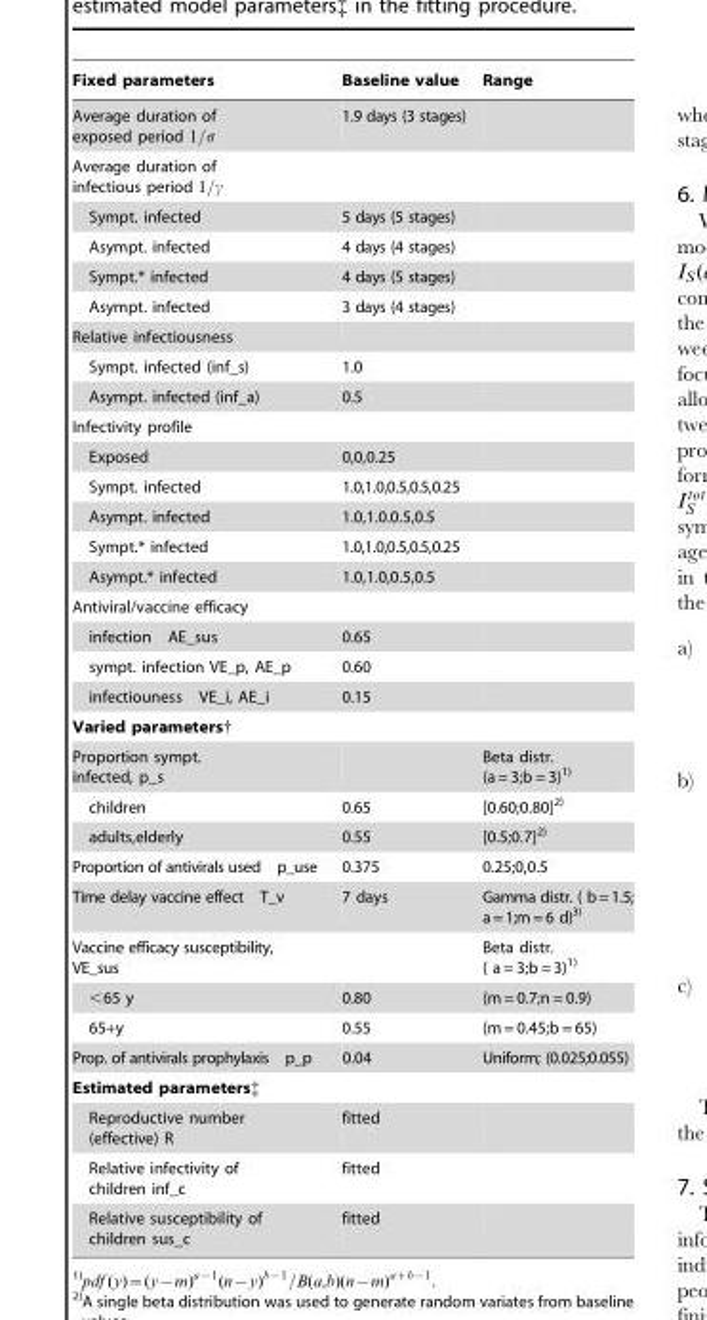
<table><thead><tr><td>Fixed parameters</td><td>Baseline value</td><td>Range</td></tr></thead><tbody><tr><td>Average duration of exposed period 1=s</td><td>1.9 days (3 stages)</td><td></td></tr><tr><td colspan="3">Average duration of infectious period 1=c</td></tr><tr><td>Sympt. infected</td><td>5 days (5 stages)</td><td></td></tr><tr><td>Asympt. infected</td><td>4 days (4 stages)</td><td></td></tr><tr><td>Sympt.* infected</td><td>4 days (5 stages)</td><td></td></tr><tr><td>Asympt. infected</td><td>3 days (4 stages)</td><td></td></tr><tr><td colspan="3">Relative infectiousness</td></tr><tr><td>Sympt. infected (inf_s)</td><td>1.0</td><td></td></tr><tr><td>Asympt. infected (inf_a)</td><td>0.5</td><td></td></tr><tr><td colspan="3">Infectivity profile</td></tr><tr><td>Exposed</td><td>0,0,0.25</td><td></td></tr><tr><td>Sympt. infected</td><td>1.0,1.0,0.5,0.5,0.25</td><td></td></tr><tr><td>Asympt. infected</td><td>1.0,1.0.0.5,0.5</td><td></td></tr><tr><td>Sympt.* infected</td><td>1.0,1.0,0.5,0.5,0.25</td><td></td></tr><tr><td>Asympt.* infected</td><td>1.0,1.0,0.5,0.5</td><td></td></tr><tr><td colspan="3">Antiviral/vaccine efficacy</td></tr><tr><td>infection AE_sus</td><td>0.65</td><td></td></tr><tr><td>sympt. infection VE_p, AE_p</td><td>0.60</td><td></td></tr><tr><td>infectiouness VE_i, AE_i</td><td>0.15</td><td></td></tr><tr><td colspan="3">Varied parameters†</td></tr><tr><td>Proportion sympt. infected, p_s</td><td></td><td>Beta distr. (a = 3;b = 3)1)</td></tr><tr><td>children</td><td>0.65</td><td>[0.60;0.80]2)</td></tr><tr><td>adults,elderly</td><td>0.55</td><td>[0.5;0.7]2)</td></tr><tr><td>Proportion of antivirals used p_use</td><td>0.375</td><td>0.25;0,0.5</td></tr><tr><td>Time delay vaccine effect T_v</td><td>7 days</td><td>Gamma distr. ( b=1.5; a=1;m=6 d)3)</td></tr><tr><td>Vaccine efficacy susceptibility, VE_sus</td><td></td><td>Beta distr. ( a = 3;b = 3)1)</td></tr><tr><td>&lt;65 y</td><td>0.80</td><td>(m = 0.7;n = 0.9)</td></tr><tr><td>65+y</td><td>0.55</td><td>(m = 0.45;b = 65)</td></tr><tr><td>Prop. of antivirals prophylaxis p_p</td><td>0.04</td><td>Uniform; (0.025;0.055)</td></tr><tr><td colspan="3">Estimated parameters‡</td></tr><tr><td>Reproductive number (effective) R</td><td>fitted</td><td></td></tr><tr><td>Relative infectivity of children inf_c</td><td>fitted</td><td></td></tr><tr><td>Relative susceptibility of children sus_c</td><td>fitted</td><td></td></tr></tbody></table>